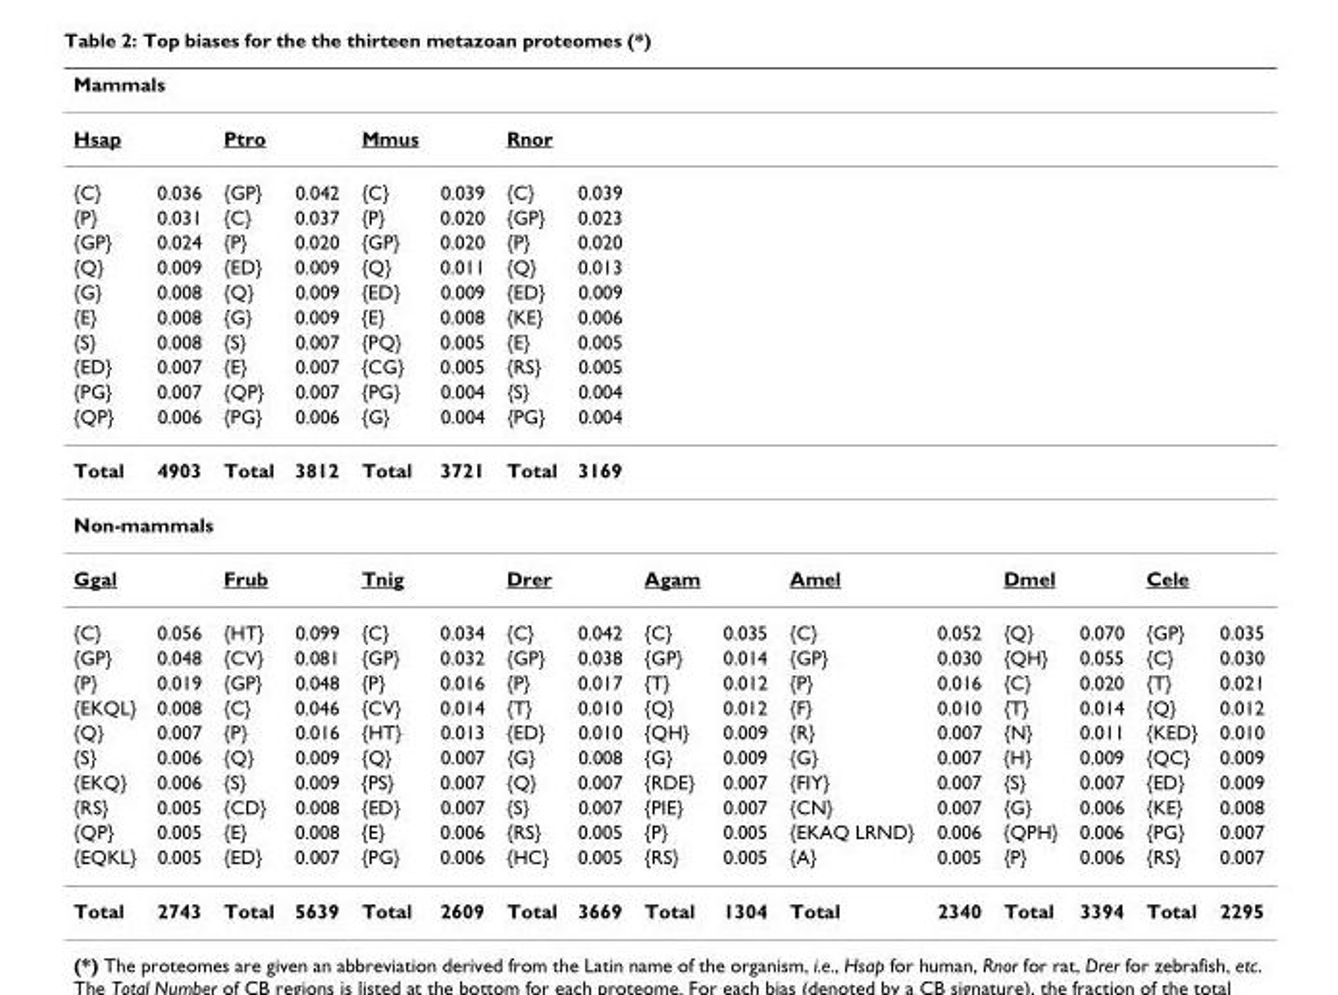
<table><thead><tr><td colspan="16">Mammals</td></tr><tr><td>Hsap</td><td></td><td>Ptro</td><td></td><td>Mmus</td><td></td><td>Rnor</td><td></td><td></td><td></td><td></td><td></td><td></td><td></td><td></td><td></td></tr></thead><tbody><tr><td>{C}</td><td>0.036</td><td>{GP}</td><td>0.042</td><td>{C}</td><td>0.039</td><td>{C}</td><td>0.039</td><td></td><td></td><td></td><td></td><td></td><td></td><td></td><td></td></tr><tr><td>{P}</td><td>0.031</td><td>{C}</td><td>0.037</td><td>{P}</td><td>0.020</td><td>{GP}</td><td>0.023</td><td></td><td></td><td></td><td></td><td></td><td></td><td></td><td></td></tr><tr><td>{GP}</td><td>0.024</td><td>{P}</td><td>0.020</td><td>{GP}</td><td>0.020</td><td>{P}</td><td>0.020</td><td></td><td></td><td></td><td></td><td></td><td></td><td></td><td></td></tr><tr><td>{Q}</td><td>0.009</td><td>{ED}</td><td>0.009</td><td>{Q}</td><td>0.011</td><td>{Q}</td><td>0.013</td><td></td><td></td><td></td><td></td><td></td><td></td><td></td><td></td></tr><tr><td>{G}</td><td>0.008</td><td>{Q}</td><td>0.009</td><td>{ED}</td><td>0.009</td><td>{ED}</td><td>0.009</td><td></td><td></td><td></td><td></td><td></td><td></td><td></td><td></td></tr><tr><td>{E}</td><td>0.008</td><td>{G}</td><td>0.009</td><td>{E}</td><td>0.008</td><td>{KE}</td><td>0.006</td><td></td><td></td><td></td><td></td><td></td><td></td><td></td><td></td></tr><tr><td>{S}</td><td>0.008</td><td>{S}</td><td>0.007</td><td>{PQ}</td><td>0.005</td><td>{E}</td><td>0.005</td><td></td><td></td><td></td><td></td><td></td><td></td><td></td><td></td></tr><tr><td>{ED}</td><td>0.007</td><td>{E}</td><td>0.007</td><td>{CG}</td><td>0.005</td><td>{RS}</td><td>0.005</td><td></td><td></td><td></td><td></td><td></td><td></td><td></td><td></td></tr><tr><td>{PG}</td><td>0.007</td><td>{QP}</td><td>0.007</td><td>{PG}</td><td>0.004</td><td>{S}</td><td>0.004</td><td></td><td></td><td></td><td></td><td></td><td></td><td></td><td></td></tr><tr><td>{QP}</td><td>0.006</td><td>{PG}</td><td>0.006</td><td>{G}</td><td>0.004</td><td>{PG}</td><td>0.004</td><td></td><td></td><td></td><td></td><td></td><td></td><td></td><td></td></tr><tr><td>Total</td><td>4903</td><td>Total</td><td>3812</td><td>Total</td><td>3721</td><td>Total</td><td>3169</td><td></td><td></td><td></td><td></td><td></td><td></td><td></td><td></td></tr><tr><td colspan="16">Non-mammals</td></tr><tr><td>Ggal</td><td></td><td>Frub</td><td></td><td>Tnig</td><td></td><td>Drer</td><td></td><td>Agam</td><td></td><td>Amel</td><td></td><td>Dmel</td><td></td><td>Cele</td><td></td></tr><tr><td>{C}</td><td>0.056</td><td>{HT}</td><td>0.099</td><td>{C}</td><td>0.034</td><td>{C}</td><td>0.042</td><td>{C}</td><td>0.035</td><td>{C}</td><td>0.052</td><td>{Q}</td><td>0.070</td><td>{GP}</td><td>0.035</td></tr><tr><td>{GP}</td><td>0.048</td><td>{CV}</td><td>0.081</td><td>{GP}</td><td>0.032</td><td>{GP}</td><td>0.038</td><td>{GP}</td><td>0.014</td><td>{GP}</td><td>0.030</td><td>{QH}</td><td>0.055</td><td>{C}</td><td>0.030</td></tr><tr><td>{P}</td><td>0.019</td><td>{GP}</td><td>0.048</td><td>{P}</td><td>0.016</td><td>{P}</td><td>0.017</td><td>{T}</td><td>0.012</td><td>{P}</td><td>0.016</td><td>{C}</td><td>0.020</td><td>{T}</td><td>0.021</td></tr><tr><td>{EKQL}</td><td>0.008</td><td>{C}</td><td>0.046</td><td>{CV}</td><td>0.014</td><td>{T}</td><td>0.010</td><td>{Q}</td><td>0.012</td><td>{F}</td><td>0.010</td><td>{T}</td><td>0.014</td><td>{Q}</td><td>0.012</td></tr><tr><td>{Q}</td><td>0.007</td><td>{P}</td><td>0.016</td><td>{HT}</td><td>0.013</td><td>{ED}</td><td>0.010</td><td>{QH}</td><td>0.009</td><td>{R}</td><td>0.007</td><td>{N}</td><td>0.011</td><td>{KED}</td><td>0.010</td></tr><tr><td>{S}</td><td>0.006</td><td>{Q}</td><td>0.009</td><td>{Q}</td><td>0.007</td><td>{G}</td><td>0.008</td><td>{G}</td><td>0.009</td><td>{G}</td><td>0.007</td><td>{H}</td><td>0.009</td><td>{QC}</td><td>0.009</td></tr><tr><td>{EKQ}</td><td>0.006</td><td>{S}</td><td>0.009</td><td>{PS}</td><td>0.007</td><td>{Q}</td><td>0.007</td><td>{RDE}</td><td>0.007</td><td>{FIY}</td><td>0.007</td><td>{S}</td><td>0.007</td><td>{ED}</td><td>0.009</td></tr><tr><td>{RS}</td><td>0.005</td><td>{CD}</td><td>0.008</td><td>{ED}</td><td>0.007</td><td>{S}</td><td>0.007</td><td>{PIE}</td><td>0.007</td><td>{CN}</td><td>0.007</td><td>{G}</td><td>0.006</td><td>{KE}</td><td>0.008</td></tr><tr><td>{QP}</td><td>0.005</td><td>{E}</td><td>0.008</td><td>{E}</td><td>0.006</td><td>{RS}</td><td>0.005</td><td>{P}</td><td>0.005</td><td>{EKAQ LRND}</td><td>0.006</td><td>{QPH}</td><td>0.006</td><td>{PG}</td><td>0.007</td></tr><tr><td>{EQKL}</td><td>0.005</td><td>{ED}</td><td>0.007</td><td>{PG}</td><td>0.006</td><td>{HC}</td><td>0.005</td><td>{RS}</td><td>0.005</td><td>{A}</td><td>0.005</td><td>{P}</td><td>0.006</td><td>{RS}</td><td>0.007</td></tr><tr><td>Total</td><td>2743</td><td>Total</td><td>5639</td><td>Total</td><td>2609</td><td>Total</td><td>3669</td><td>Total</td><td>1304</td><td>Total</td><td>2340</td><td>Total</td><td>3394</td><td>Total</td><td>2295</td></tr></tbody></table>